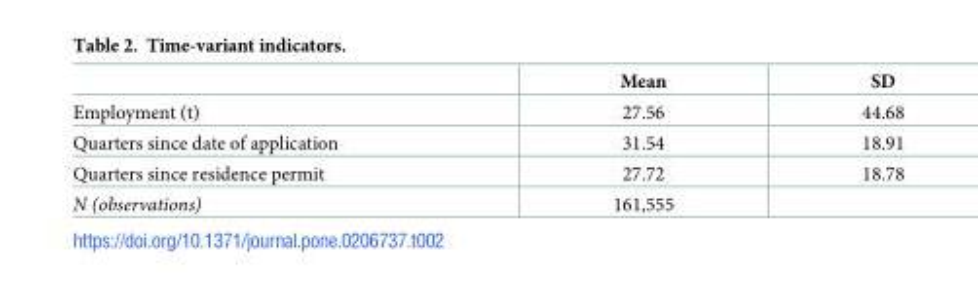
<table><thead><tr><td></td><td>Mean</td><td>SD</td></tr></thead><tbody><tr><td>Employment (t)</td><td>27.56</td><td>44.68</td></tr><tr><td>Quarters since date of application</td><td>31.54</td><td>18.91</td></tr><tr><td>Quarters since residence permit</td><td>27.72</td><td>18.78</td></tr><tr><td>N (observations)</td><td>161,555</td><td></td></tr></tbody></table>